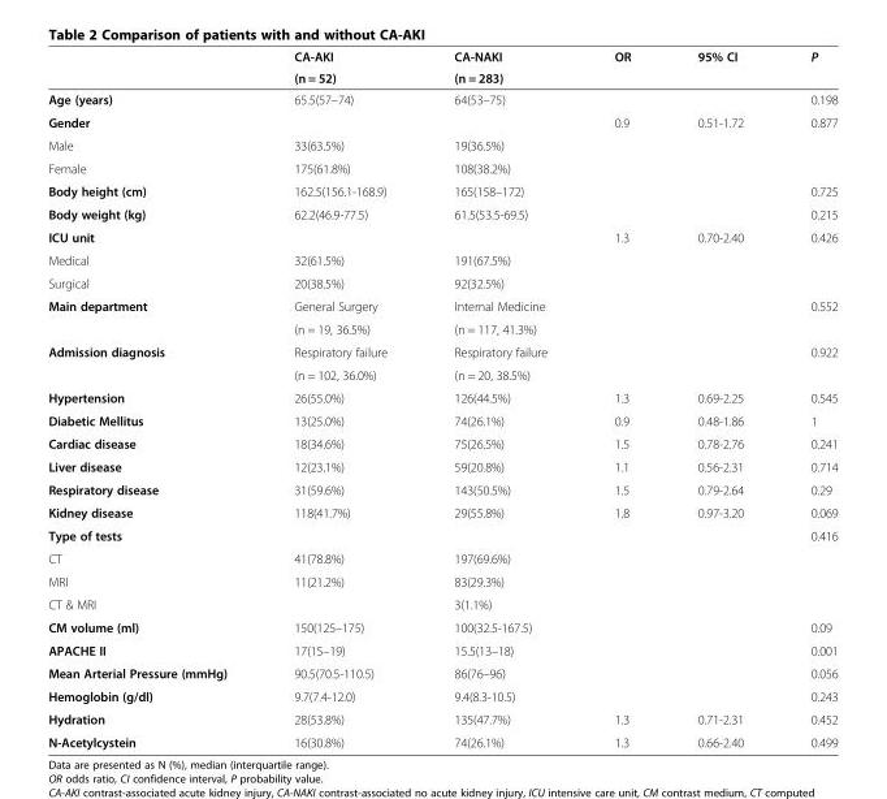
<table><thead><tr><td rowspan="2"></td><td rowspan="2">CA-AKI (n = 52)</td><td rowspan="2">CA-NAKI (n = 283)</td><td rowspan="2">OR</td><td rowspan="2">95% CI</td><td rowspan="2">P</td></tr><tr></tr></thead><tbody><tr><td>Age (years)</td><td>65.5(57–74)</td><td>64(53–75)</td><td></td><td></td><td>0.198</td></tr><tr><td>Gender</td><td></td><td></td><td>0.9</td><td>0.51-1.72</td><td>0.877</td></tr><tr><td>Male</td><td>33(63.5%)</td><td>19(36.5%)</td><td></td><td></td><td></td></tr><tr><td>Female</td><td>175(61.8%)</td><td>108(38.2%)</td><td></td><td></td><td></td></tr><tr><td>Body height (cm)</td><td>162.5(156.1-168.9)</td><td>165(158–172)</td><td></td><td></td><td>0.725</td></tr><tr><td>Body weight (kg)</td><td>62.2(46.9-77.5)</td><td>61.5(53.5-69.5)</td><td></td><td></td><td>0.215</td></tr><tr><td>ICU unit</td><td></td><td></td><td>1.3</td><td>0.70-2.40</td><td>0.426</td></tr><tr><td>Medical</td><td>32(61.5%)</td><td>191(67.5%)</td><td></td><td></td><td></td></tr><tr><td>Surgical</td><td>20(38.5%)</td><td>92(32.5%)</td><td></td><td></td><td></td></tr><tr><td rowspan="2">Main department</td><td>General Surgery</td><td>Internal Medicine</td><td></td><td></td><td>0.552</td></tr><tr><td>(n = 19, 36.5%)</td><td>(n = 117, 41.3%)</td><td></td><td></td><td></td></tr><tr><td rowspan="2">Admission diagnosis</td><td>Respiratory failure</td><td>Respiratory failure</td><td></td><td></td><td>0.922</td></tr><tr><td>(n = 102, 36.0%)</td><td>(n = 20, 38.5%)</td><td></td><td></td><td></td></tr><tr><td>Hypertension</td><td>26(55.0%)</td><td>126(44.5%)</td><td>1.3</td><td>0.69-2.25</td><td>0.545</td></tr><tr><td>Diabetic Mellitus</td><td>13(25.0%)</td><td>74(26.1%)</td><td>0.9</td><td>0.48-1.86</td><td>1</td></tr><tr><td>Cardiac disease</td><td>18(34.6%)</td><td>75(26.5%)</td><td>1.5</td><td>0.78-2.76</td><td>0.241</td></tr><tr><td>Liver disease</td><td>12(23.1%)</td><td>59(20.8%)</td><td>1.1</td><td>0.56-2.31</td><td>0.714</td></tr><tr><td>Respiratory disease</td><td>31(59.6%)</td><td>143(50.5%)</td><td>1.5</td><td>0.79-2.64</td><td>0.29</td></tr><tr><td>Kidney disease</td><td>118(41.7%)</td><td>29(55.8%)</td><td>1.8</td><td>0.97-3.20</td><td>0.069</td></tr><tr><td>Type of tests</td><td></td><td></td><td></td><td></td><td>0.416</td></tr><tr><td>CT</td><td>41(78.8%)</td><td>197(69.6%)</td><td></td><td></td><td></td></tr><tr><td>MRI</td><td>11(21.2%)</td><td>83(29.3%)</td><td></td><td></td><td></td></tr><tr><td>CT &amp; MRI</td><td></td><td>3(1.1%)</td><td></td><td></td><td></td></tr><tr><td>CM volume (ml)</td><td>150(125–175)</td><td>100(32.5-167.5)</td><td></td><td></td><td>0.09</td></tr><tr><td>APACHE II</td><td>17(15–19)</td><td>15.5(13–18)</td><td></td><td></td><td>0.001</td></tr><tr><td>Mean Arterial Pressure (mmHg)</td><td>90.5(70.5-110.5)</td><td>86(76–96)</td><td></td><td></td><td>0.056</td></tr><tr><td>Hemoglobin (g/dl)</td><td>9.7(7.4-12.0)</td><td>9.4(8.3-10.5)</td><td></td><td></td><td>0.243</td></tr><tr><td>Hydration</td><td>28(53.8%)</td><td>135(47.7%)</td><td>1.3</td><td>0.71-2.31</td><td>0.452</td></tr><tr><td>N-Acetylcystein</td><td>16(30.8%)</td><td>74(26.1%)</td><td>1.3</td><td>0.66-2.40</td><td>0.499</td></tr></tbody></table>